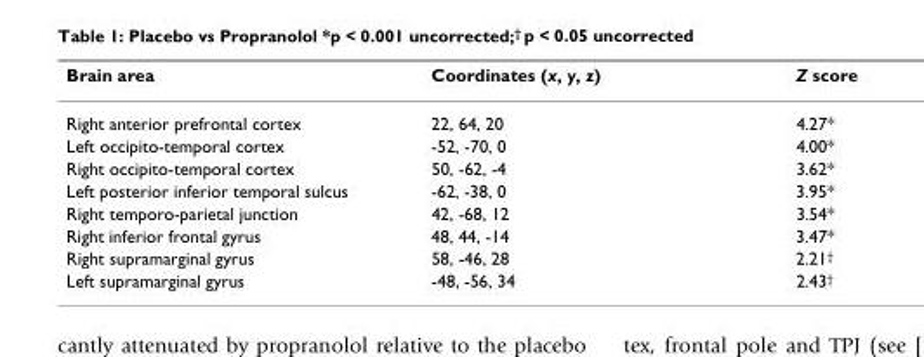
<table><thead><tr><td>Brain area</td><td>Coordinates (x, y, z)</td><td>Z score</td></tr></thead><tbody><tr><td>Right anterior prefrontal cortex</td><td>22, 64, 20</td><td>4.27*</td></tr><tr><td>Left occipito-temporal cortex</td><td>-52, -70, 0</td><td>4.00*</td></tr><tr><td>Right occipito-temporal cortex</td><td>50, -62, -4</td><td>3.62*</td></tr><tr><td>Left posterior inferior temporal sulcus</td><td>-62, -38, 0</td><td>3.95*</td></tr><tr><td>Right temporo-parietal junction</td><td>42, -68, 12</td><td>3.54*</td></tr><tr><td>Right inferior frontal gyrus</td><td>48, 44, -14</td><td>3.47*</td></tr><tr><td>Right supramarginal gyrus</td><td>58, -46, 28</td><td>2.21<sup>†</sup></td></tr><tr><td>Left supramarginal gyrus</td><td>-48, -56, 34</td><td>2.43<sup>†</sup></td></tr></tbody></table>